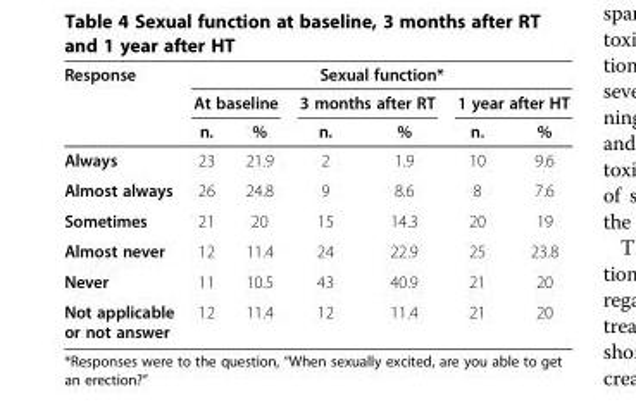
<table><thead><tr><td rowspan="3">Response</td><td colspan="6">Sexual function*</td></tr><tr><td colspan="2">At baseline</td><td colspan="2">3 months after RT</td><td colspan="2">1 year after HT</td></tr><tr><td>n.</td><td>%</td><td>n.</td><td>%</td><td>n.</td><td>%</td></tr></thead><tbody><tr><td>Always</td><td>23</td><td>21.9</td><td>2</td><td>1.9</td><td>10</td><td>9.6</td></tr><tr><td>Almost always</td><td>26</td><td>24.8</td><td>9</td><td>8.6</td><td>8</td><td>7.6</td></tr><tr><td>Sometimes</td><td>21</td><td>20</td><td>15</td><td>14.3</td><td>20</td><td>19</td></tr><tr><td>Almost never</td><td>12</td><td>11.4</td><td>24</td><td>22.9</td><td>25</td><td>23.8</td></tr><tr><td>Never</td><td>11</td><td>10.5</td><td>43</td><td>40.9</td><td>21</td><td>20</td></tr><tr><td>Not applicable or not answer</td><td>12</td><td>11.4</td><td>12</td><td>11.4</td><td>21</td><td>20</td></tr></tbody></table>